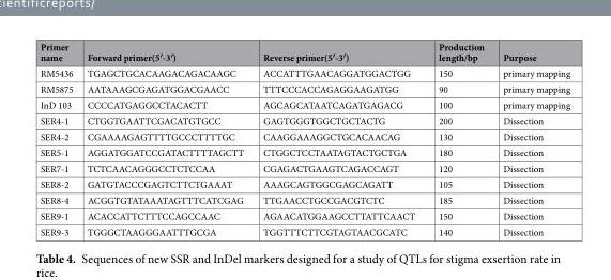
<table><thead><tr><td>Primer name</td><td>Forward primer(5′-3′)</td><td>Reverse primer(5′-3′)</td><td>Production length/bp</td><td>Purpose</td></tr></thead><tbody><tr><td>RM5436</td><td>TGAGCTGCACAAGACAGACAAGC</td><td>ACCATTTGAACAGGATGGACTGG</td><td>150</td><td>primary mapping</td></tr><tr><td>RM5875</td><td>AATAAAGCGAGATGGACGAACC</td><td>TTTCCCACCAGAGGAAGATGG</td><td>90</td><td>primary mapping</td></tr><tr><td>InD 103</td><td>CCCCATGAGGCCTACACTT</td><td>AGCAGCATAATCAGATGAGACG</td><td>100</td><td>primary mapping</td></tr><tr><td>SER4-1</td><td>CTGGTGAATTCGACATGTGCC</td><td>GAGTGGGTGGCTGCTACTG</td><td>200</td><td>Dissection</td></tr><tr><td>SER4-2</td><td>CGAAAAGAGTTTTGCCCTTTTGC</td><td>CAAGGAAAGGCTGCACAACAG</td><td>130</td><td>Dissection</td></tr><tr><td>SER5-1</td><td>AGGATGGATCCGATACTTTTAGCTT</td><td>CTGGCTCCTAATAGTACTGCTGA</td><td>180</td><td>Dissection</td></tr><tr><td>SER7-1</td><td>TCTCAACAGGGCCTCTCCAA</td><td>CGAGACTGAAGTCAGACCAGT</td><td>120</td><td>Dissection</td></tr><tr><td>SER8-2</td><td>GATGTACCCGAGTCTTCTGAAAT</td><td>AAAGCAGTGGCGAGCAGATT</td><td>105</td><td>Dissection</td></tr><tr><td>SER8-4</td><td>ACGGTGTATAAATAGTTTCATCGAG</td><td>TTGAACCTGCCGACGTCTC</td><td>185</td><td>Dissection</td></tr><tr><td>SER9-1</td><td>ACACCATTCTTTCCAGCCAAC</td><td>AGAACATGGAAGCCTTATTCAACT</td><td>150</td><td>Dissection</td></tr><tr><td>SER9-3</td><td>TGGGCTAAGGGAATTTGCGA</td><td>TGGTTTCTTCGTAGTAACGCATC</td><td>140</td><td>Dissection</td></tr></tbody></table>